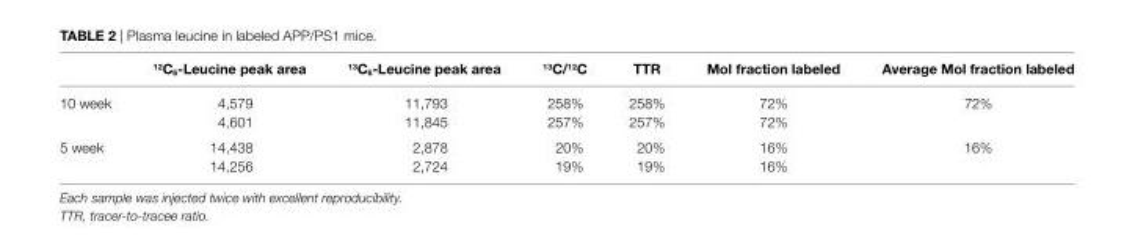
<table><thead><tr><td></td><td><sup>12</sup>c<sub>6</sub>-leucine peak area</td><td><sup>13</sup>c<sub>6</sub>-leucine peak area</td><td><sup>13</sup>c/<sup>12</sup>c</td><td>TTr</td><td>Mol fraction labeled</td><td>average Mol fraction labeled</td></tr></thead><tbody><tr><td rowspan="2">10 week</td><td>4,579</td><td>11,793</td><td>258%</td><td>258%</td><td>72%</td><td>72%</td></tr><tr><td>4,601</td><td>11,845</td><td>257%</td><td>257%</td><td>72%</td><td></td></tr><tr><td rowspan="2">5 week</td><td>14,438</td><td>2,878</td><td>20%</td><td>20%</td><td>16%</td><td>16%</td></tr><tr><td>14,256</td><td>2,724</td><td>19%</td><td>19%</td><td>16%</td><td></td></tr></tbody></table>